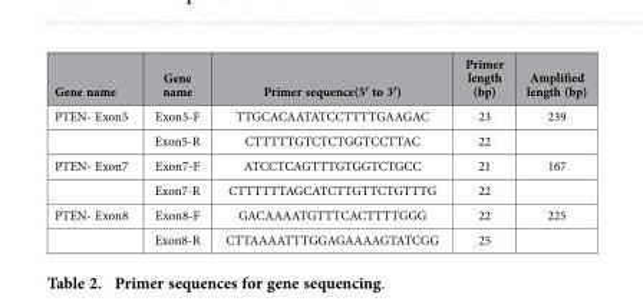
<table><thead><tr><td>Gene name</td><td>Gene name</td><td>Primer sequence(5′ to 3′)</td><td>Primer length (bp)</td><td>Amplified length (bp)</td></tr></thead><tbody><tr><td rowspan="2">PTEN- Exon5</td><td>Exon5-F</td><td>TTGCACAATATCCTTTTGAAGAC</td><td>23</td><td>239</td></tr><tr><td>Exon5-R</td><td>CTTTTTGTCTCTGGTCCTTAC</td><td>22</td><td></td></tr><tr><td rowspan="2">PTEN- Exon7</td><td>Exon7-F</td><td>ATCCTCAGTTTGTGGTCTGCC</td><td>21</td><td>167</td></tr><tr><td>Exon7-R</td><td>CTTTTTTAGCATCTTGTTCTGTTTG</td><td>22</td><td></td></tr><tr><td rowspan="2">PTEN- Exon8</td><td>Exon8-F</td><td>GACAAAATGTTTCACTTTTGGG</td><td>22</td><td>225</td></tr><tr><td>Exon8-R</td><td>CTTAAAATTTGGAGAAAAGTATCGG</td><td>25</td><td></td></tr></tbody></table>